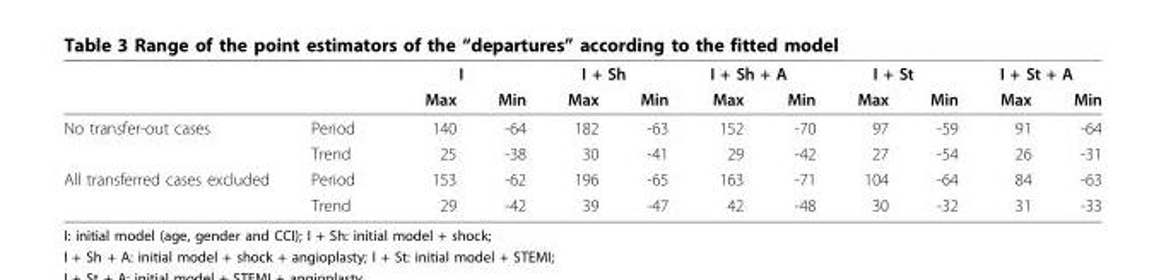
<table><thead><tr><td rowspan="2"></td><td rowspan="2"></td><td colspan="2">I</td><td colspan="2">I + Sh</td><td colspan="2">I + Sh + A</td><td colspan="2">I + St</td><td colspan="2">I + St + A</td></tr><tr><td>Max</td><td>Min</td><td>Max</td><td>Min</td><td>Max</td><td>Min</td><td>Max</td><td>Min</td><td>Max</td><td>Min</td></tr></thead><tbody><tr><td rowspan="2">No transfer-out cases</td><td>Period</td><td>140</td><td>-64</td><td>182</td><td>-63</td><td>152</td><td>-70</td><td>97</td><td>-59</td><td>91</td><td>-64</td></tr><tr><td>Trend</td><td>25</td><td>-38</td><td>30</td><td>-41</td><td>29</td><td>-42</td><td>27</td><td>-54</td><td>26</td><td>-31</td></tr><tr><td rowspan="2">All transferred cases excluded</td><td>Period</td><td>153</td><td>-62</td><td>196</td><td>-65</td><td>163</td><td>-71</td><td>104</td><td>-64</td><td>84</td><td>-63</td></tr><tr><td>Trend</td><td>29</td><td>-42</td><td>39</td><td>-47</td><td>42</td><td>-48</td><td>30</td><td>-32</td><td>31</td><td>-33</td></tr></tbody></table>